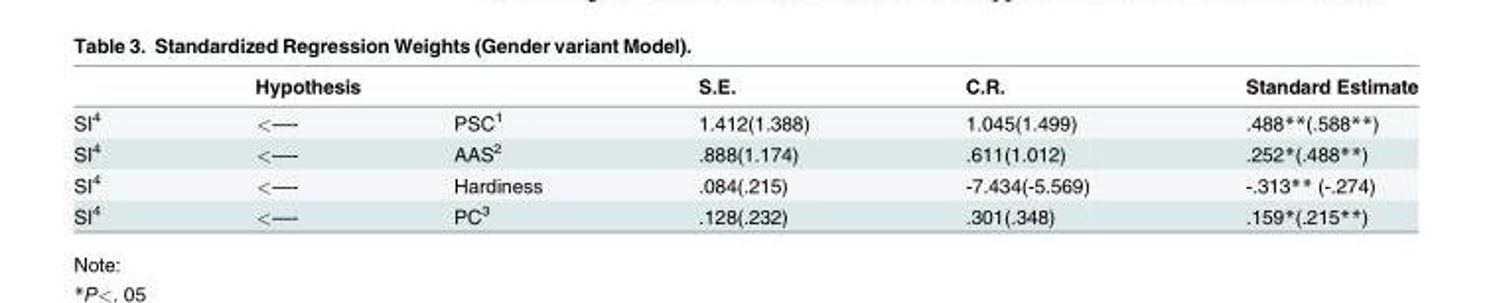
<table><thead><tr><td colspan="3">Hypothesis</td><td rowspan="2">S.E. 1.412(1.388)</td><td rowspan="2">C.R. 1.045(1.499)</td><td rowspan="2">Standard Estimate .488**(.588**)</td></tr><tr><td>SI<sup>4</sup></td><td>&lt;—-</td><td>PSC<sup>1</sup></td></tr></thead><tbody><tr><td>SI<sup>4</sup></td><td>&lt;—-</td><td>AAS<sup>2</sup></td><td>.888(1.174)</td><td>.611(1.012)</td><td>.252*(.488**)</td></tr><tr><td>SI<sup>4</sup></td><td>&lt;—-</td><td>Hardiness</td><td>.084(.215)</td><td>-7.434(-5.569)</td><td>-.313** (-.274)</td></tr><tr><td>SI<sup>4</sup></td><td>&lt;—-</td><td>PC<sup>3</sup></td><td>.128(.232)</td><td>.301(.348)</td><td>.159*(.215**)</td></tr></tbody></table>